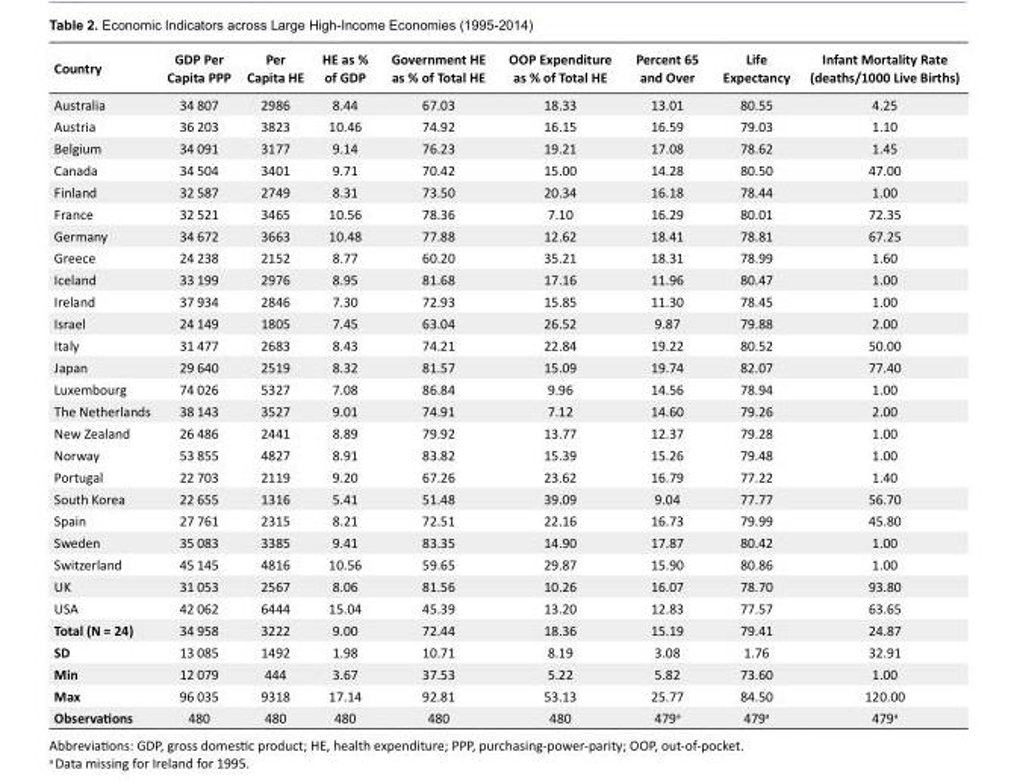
<table><tbody><tr><td>Country</td><td>GDP Per Capita PPP</td><td>Per Capita HE</td><td>HE as % of GDP</td><td>Government HE as % of Total HE</td><td>OOP Expenditure as % of Total HE</td><td>Percent 65 and Over</td><td>Life Expectancy</td><td>Infant Mortality Rate (deaths/1000 Live Births)</td></tr><tr><td>Australia</td><td>34 807</td><td>2986</td><td>8.44</td><td>67.03</td><td>18.33</td><td>13.01</td><td>80.55</td><td>4.25</td></tr><tr><td>Austria</td><td>36 203</td><td>3823</td><td>10.46</td><td>74.92</td><td>16.15</td><td>16.59</td><td>79.03</td><td>1.10</td></tr><tr><td>Belgium</td><td>34 091</td><td>3177</td><td>9.14</td><td>76.23</td><td>19.21</td><td>17.08</td><td>78.62</td><td>1.45</td></tr><tr><td>Canada</td><td>34 504</td><td>3401</td><td>9.71</td><td>70.42</td><td>15.00</td><td>14.28</td><td>80.50</td><td>47.00</td></tr><tr><td>Finland</td><td>32 587</td><td>2749</td><td>8.31</td><td>73.50</td><td>20.34</td><td>16.18</td><td>78.44</td><td>1.00</td></tr><tr><td>France</td><td>32 521</td><td>3465</td><td>10.56</td><td>78.36</td><td>7.10</td><td>16.29</td><td>80.01</td><td>72.35</td></tr><tr><td>Germany</td><td>34 672</td><td>3663</td><td>10.48</td><td>77.88</td><td>12.62</td><td>18.41</td><td>78.81</td><td>67.25</td></tr><tr><td>Greece</td><td>24 238</td><td>2152</td><td>8.77</td><td>60.20</td><td>35.21</td><td>18.31</td><td>78.99</td><td>1.60</td></tr><tr><td>Iceland</td><td>33 199</td><td>2976</td><td>8.95</td><td>81.68</td><td>17.16</td><td>11.96</td><td>80.47</td><td>1.00</td></tr><tr><td>Ireland</td><td>37 934</td><td>2846</td><td>7.30</td><td>72.93</td><td>15.85</td><td>11.30</td><td>78.45</td><td>1.00</td></tr><tr><td>Israel</td><td>24 149</td><td>1805</td><td>7.45</td><td>63.04</td><td>26.52</td><td>9.87</td><td>79.88</td><td>2.00</td></tr><tr><td>Italy</td><td>31 477</td><td>2683</td><td>8.43</td><td>74.21</td><td>22.84</td><td>19.22</td><td>80.52</td><td>50.00</td></tr><tr><td>Japan</td><td>29 640</td><td>2519</td><td>8.32</td><td>81.57</td><td>15.09</td><td>19.74</td><td>82.07</td><td>77.40</td></tr><tr><td>Luxembourg</td><td>74 026</td><td>5327</td><td>7.08</td><td>86.84</td><td>9.96</td><td>14.56</td><td>78.94</td><td>1.00</td></tr><tr><td>The Netherlands</td><td>38 143</td><td>3527</td><td>9.01</td><td>74.91</td><td>7.12</td><td>14.60</td><td>79.26</td><td>2.00</td></tr><tr><td>New Zealand</td><td>26 486</td><td>2441</td><td>8.89</td><td>79.92</td><td>13.77</td><td>12.37</td><td>79.28</td><td>1.00</td></tr><tr><td>Norway</td><td>53 855</td><td>4827</td><td>8.91</td><td>83.82</td><td>15.39</td><td>15.26</td><td>79.48</td><td>1.00</td></tr><tr><td>Portugal</td><td>22 703</td><td>2119</td><td>9.20</td><td>67.26</td><td>23.62</td><td>16.79</td><td>77.22</td><td>1.40</td></tr><tr><td>South Korea</td><td>22 655</td><td>1316</td><td>5.41</td><td>51.48</td><td>39.09</td><td>9.04</td><td>77.77</td><td>56.70</td></tr><tr><td>Spain</td><td>27 761</td><td>2315</td><td>8.21</td><td>72.51</td><td>22.16</td><td>16.73</td><td>79.99</td><td>45.80</td></tr><tr><td>Sweden</td><td>35 083</td><td>3385</td><td>9.41</td><td>83.35</td><td>14.90</td><td>17.87</td><td>80.42</td><td>1.00</td></tr><tr><td>Switzerland</td><td>45 145</td><td>4816</td><td>10.56</td><td>59.65</td><td>29.87</td><td>15.90</td><td>80.86</td><td>1.00</td></tr><tr><td>UK</td><td>31 053</td><td>2567</td><td>8.06</td><td>81.56</td><td>10.26</td><td>16.07</td><td>78.70</td><td>93.80</td></tr><tr><td>USA</td><td>42 062</td><td>6444</td><td>15.04</td><td>45.39</td><td>13.20</td><td>12.83</td><td>77.57</td><td>63.65</td></tr><tr><td>Total (N = 24)</td><td>34 958</td><td>3222</td><td>9.00</td><td>72.44</td><td>18.36</td><td>15.19</td><td>79.41</td><td>24.87</td></tr><tr><td>SD</td><td>13 085</td><td>1492</td><td>1.98</td><td>10.71</td><td>8.19</td><td>3.08</td><td>1.76</td><td>32.91</td></tr><tr><td>Min</td><td>12 079</td><td>444</td><td>3.67</td><td>37.53</td><td>5.22</td><td>5.82</td><td>73.60</td><td>1.00</td></tr><tr><td>Max</td><td>96 035</td><td>9318</td><td>17.14</td><td>92.81</td><td>53.13</td><td>25.77</td><td>84.50</td><td>120.00</td></tr><tr><td>Observations</td><td>480</td><td>480</td><td>480</td><td>480</td><td>480</td><td>479<sup>a</sup></td><td>479<sup>a</sup></td><td>479<sup>a</sup></td></tr></tbody></table>